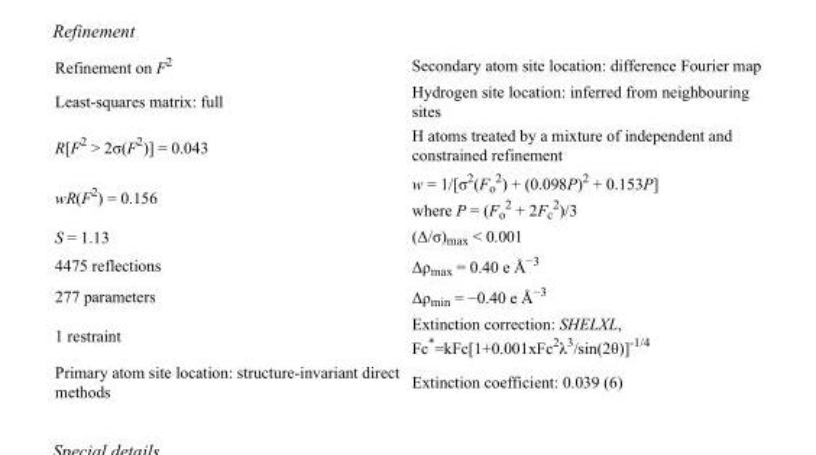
<table><tbody><tr><td>Refinement on F<sup>2</sup></td><td>Secondary atom site location: difference Fourier map</td></tr><tr><td>Least-squares matrix: full</td><td>Hydrogen site location: inferred from neighbouring sites</td></tr><tr><td>R[F<sup>2</sup> &gt; 2σ(F<sup>2</sup>)] = 0.043</td><td>H atoms treated by a mixture of independent and constrained refinement</td></tr><tr><td>wR(F<sup>2</sup>) = 0.156</td><td>w = 1/[σ<sup>2</sup>(F<sub>o</sub> <sup>2</sup>) + (0.098P)<sup>2</sup> + 0.153P] where P = (F<sub>o</sub> <sup>2</sup> + 2F<sub>c</sub> <sup>2</sup>)/3</td></tr><tr><td>S = 1.13</td><td>(Δ/σ)<sub>max</sub> &lt; 0.001</td></tr><tr><td>4475 reflections</td><td>Δρ<sub>max</sub> = 0.40 e Å<sup>−3</sup></td></tr><tr><td>277 parameters</td><td>Δρ<sub>min</sub> = −0.40 e Å<sup>−3</sup></td></tr><tr><td>1 restraint</td><td>Extinction correction: SHELXL, Fc*=kFc[1+0.001xFc<sup>2</sup>λ<sup>3</sup>/sin(2θ)]<sup>-1/4</sup></td></tr><tr><td>Primary atom site location: structure-invariant direct methods</td><td>Extinction coefficient: 0.039 (6)</td></tr></tbody></table>